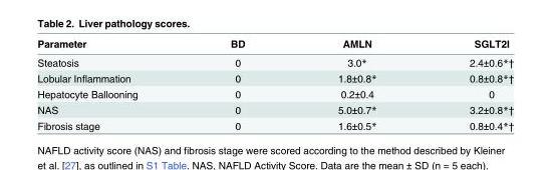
<table><thead><tr><td>Parameter</td><td>BD</td><td>AMLN</td><td>SGLT2I</td></tr></thead><tbody><tr><td>Steatosis</td><td>0</td><td>3.0*</td><td>2.4±0.6*†</td></tr><tr><td>Lobular Inflammation</td><td>0</td><td>1.8±0.8*</td><td>0.8±0.8*†</td></tr><tr><td>Hepatocyte Ballooning</td><td>0</td><td>0.2±0.4</td><td>0</td></tr><tr><td>NAS</td><td>0</td><td>5.0±0.7*</td><td>3.2±0.8*†</td></tr><tr><td>Fibrosis stage</td><td>0</td><td>1.6±0.5*</td><td>0.8±0.4*†</td></tr></tbody></table>